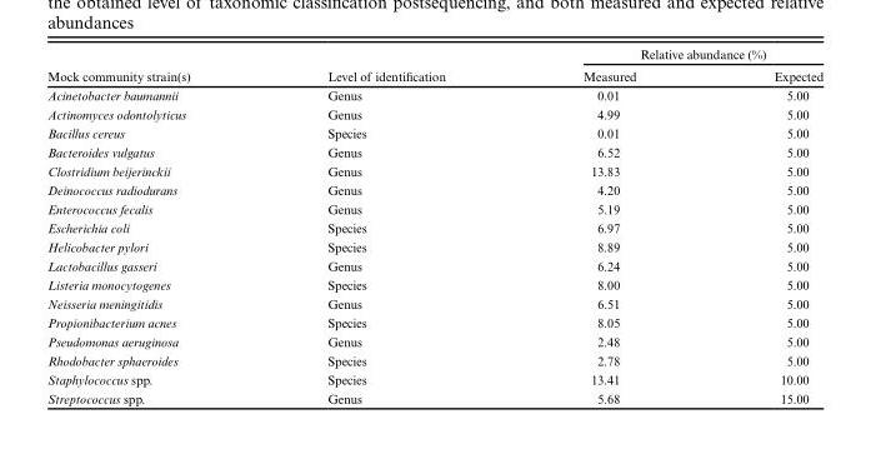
<table><thead><tr><td rowspan="2">Mock community strain(s)</td><td rowspan="2">Level of identification</td><td colspan="2">Relative abundance (%)</td></tr><tr><td>Measured</td><td>Expected</td></tr></thead><tbody><tr><td>Acinetobacter baumannii</td><td>Genus</td><td>0.01</td><td>5.00</td></tr><tr><td>Actinomyces odontolyticus</td><td>Genus</td><td>4.99</td><td>5.00</td></tr><tr><td>Bacillus cereus</td><td>Species</td><td>0.01</td><td>5.00</td></tr><tr><td>Bacteroides vulgatus</td><td>Genus</td><td>6.52</td><td>5.00</td></tr><tr><td>Clostridium beijerinckii</td><td>Genus</td><td>13.83</td><td>5.00</td></tr><tr><td>Deinococcus radiodurans</td><td>Genus</td><td>4.20</td><td>5.00</td></tr><tr><td>Enterococcus fecalis</td><td>Genus</td><td>5.19</td><td>5.00</td></tr><tr><td>Escherichia coli</td><td>Species</td><td>6.97</td><td>5.00</td></tr><tr><td>Helicobacter pylori</td><td>Species</td><td>8.89</td><td>5.00</td></tr><tr><td>Lactobacillus gasseri</td><td>Genus</td><td>6.24</td><td>5.00</td></tr><tr><td>Listeria monocytogenes</td><td>Species</td><td>8.00</td><td>5.00</td></tr><tr><td>Neisseria meningitidis</td><td>Genus</td><td>6.51</td><td>5.00</td></tr><tr><td>Propionibacterium acnes</td><td>Species</td><td>8.05</td><td>5.00</td></tr><tr><td>Pseudomonas aeruginosa</td><td>Genus</td><td>2.48</td><td>5.00</td></tr><tr><td>Rhodobacter sphaeroides</td><td>Species</td><td>2.78</td><td>5.00</td></tr><tr><td>Staphylococcus spp.</td><td>Species</td><td>13.41</td><td>10.00</td></tr><tr><td>Streptococcus spp.</td><td>Genus</td><td>5.68</td><td>15.00</td></tr></tbody></table>